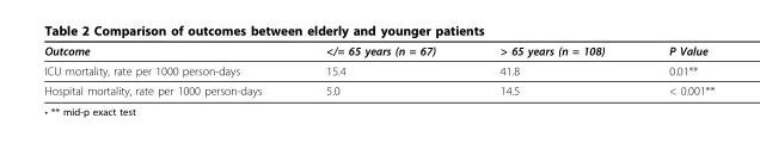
<table><thead><tr><td>Outcome</td><td>&lt;/= 65 years (n = 67)</td><td>&gt; 65 years (n = 108)</td><td>P Value</td></tr></thead><tbody><tr><td>ICU mortality, rate per 1000 person-days</td><td>15.4</td><td>41.8</td><td>0.01**</td></tr><tr><td>Hospital mortality, rate per 1000 person-days</td><td>5.0</td><td>14.5</td><td>&lt; 0.001**</td></tr></tbody></table>